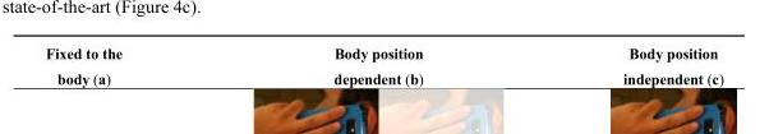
<table><thead><tr><td>Fixed to the body (a)</td><td>Body position dependent (b)</td><td>Body position independent (c)</td></tr></thead><tbody></tbody></table>